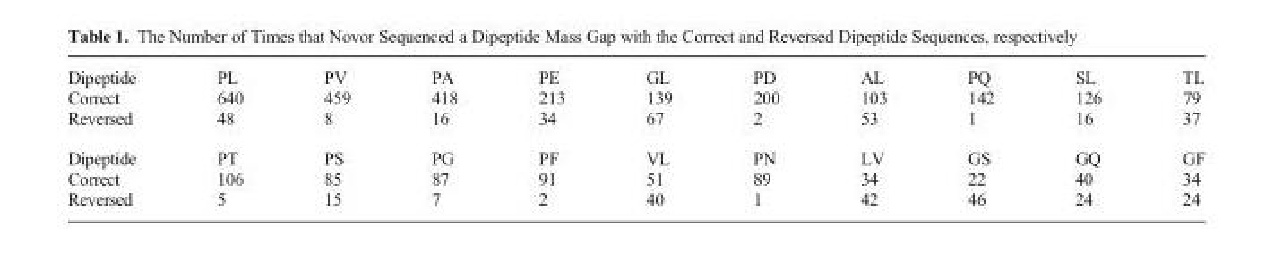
<table><tbody><tr><td>Dipeptide</td><td>PL</td><td>PV</td><td>PA</td><td>PE</td><td>GL</td><td>PD</td><td>AL</td><td>PQ</td><td>SL</td><td>TL</td></tr><tr><td>Correct</td><td>640</td><td>459</td><td>418</td><td>213</td><td>139</td><td>200</td><td>103</td><td>142</td><td>126</td><td>79</td></tr><tr><td>Reversed</td><td>48</td><td>8</td><td>16</td><td>34</td><td>67</td><td>2</td><td>53</td><td>1</td><td>16</td><td>37</td></tr><tr><td>Dipeptide</td><td>PT</td><td>PS</td><td>PG</td><td>PF</td><td>VL</td><td>PN</td><td>LV</td><td>GS</td><td>GQ</td><td>GF</td></tr><tr><td>Correct</td><td>106</td><td>85</td><td>87</td><td>91</td><td>51</td><td>89</td><td>34</td><td>22</td><td>40</td><td>34</td></tr><tr><td>Reversed</td><td>5</td><td>15</td><td>7</td><td>2</td><td>40</td><td>1</td><td>42</td><td>46</td><td>24</td><td>24</td></tr></tbody></table>